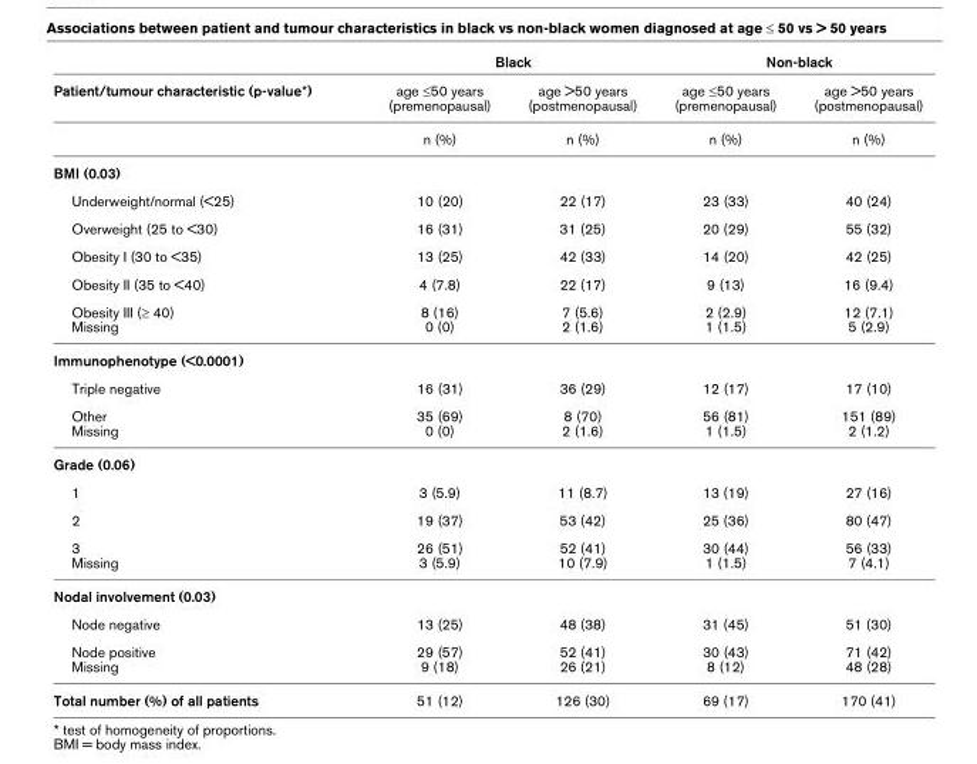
<table><thead><tr><td rowspan="2">Patient/tumour characteristic (p-value*)</td><td colspan="2">Black</td><td colspan="2">Non-black</td></tr><tr><td>age ≤50 years (premenopausal)</td><td>age &gt;50 years (postmenopausal)</td><td>age ≤50 years (premenopausal)</td><td>age &gt;50 years (postmenopausal)</td></tr></thead><tbody><tr><td></td><td>n (%)</td><td>n (%)</td><td>n (%)</td><td>n (%)</td></tr><tr><td colspan="5">BMI (0.03)</td></tr><tr><td>Underweight/normal (&lt;25)</td><td>10 (20)</td><td>22 (17)</td><td>23 (33)</td><td>40 (24)</td></tr><tr><td>Overweight (25 to &lt;30)</td><td>16 (31)</td><td>31 (25)</td><td>20 (29)</td><td>55 (32)</td></tr><tr><td>Obesity I (30 to &lt;35)</td><td>13 (25)</td><td>42 (33)</td><td>14 (20)</td><td>42 (25)</td></tr><tr><td>Obesity II (35 to &lt;40)</td><td>4 (7.8)</td><td>22 (17)</td><td>9 (13)</td><td>16 (9.4)</td></tr><tr><td>Obesity III (≥ 40) Missing</td><td>8 (16) 0 (0)</td><td>7 (5.6) 2 (1.6)</td><td>2 (2.9) 1 (1.5)</td><td>12 (7.1) 5 (2.9)</td></tr><tr><td colspan="5">Immunophenotype (&lt;0.0001)</td></tr><tr><td>Triple negative</td><td>16 (31)</td><td>36 (29)</td><td>12 (17)</td><td>17 (10)</td></tr><tr><td>Other Missing</td><td>35 (69) 0 (0)</td><td>8 (70) 2 (1.6)</td><td>56 (81) 1 (1.5)</td><td>151 (89) 2 (1.2)</td></tr><tr><td colspan="5">Grade (0.06)</td></tr><tr><td>1</td><td>3 (5.9)</td><td>11 (8.7)</td><td>13 (19)</td><td>27 (16)</td></tr><tr><td>2</td><td>19 (37)</td><td>53 (42)</td><td>25 (36)</td><td>80 (47)</td></tr><tr><td>3 Missing</td><td>26 (51) 3 (5.9)</td><td>52 (41) 10 (7.9)</td><td>30 (44) 1 (1.5)</td><td>56 (33) 7 (4.1)</td></tr><tr><td colspan="5">Nodal involvement (0.03)</td></tr><tr><td>Node negative</td><td>13 (25)</td><td>48 (38)</td><td>31 (45)</td><td>51 (30)</td></tr><tr><td>Node positive Missing</td><td>29 (57) 9 (18)</td><td>52 (41) 26 (21)</td><td>30 (43) 8 (12)</td><td>71 (42) 48 (28)</td></tr><tr><td>Total number (%) of all patients</td><td>51 (12)</td><td>126 (30)</td><td>69 (17)</td><td>170 (41)</td></tr></tbody></table>